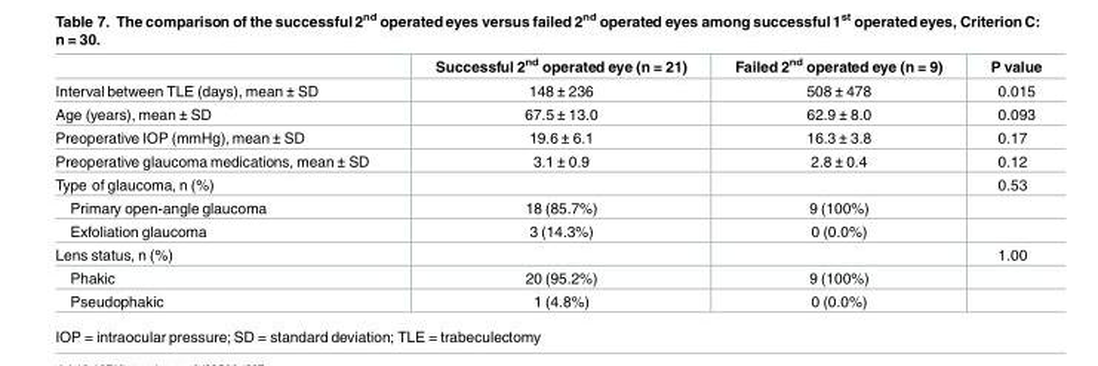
<table><thead><tr><td></td><td>Successful 2<sup>nd</sup> operated eye (n = 21)</td><td>Failed 2<sup>nd</sup> operated eye (n = 9)</td><td>P value</td></tr></thead><tbody><tr><td>Interval between TLE (days), mean ± SD</td><td>148 ± 236</td><td>508 ± 478</td><td>0.015</td></tr><tr><td>Age (years), mean ± SD</td><td>67.5 ± 13.0</td><td>62.9 ± 8.0</td><td>0.093</td></tr><tr><td>Preoperative IOP (mmHg), mean ± SD</td><td>19.6 ± 6.1</td><td>16.3 ± 3.8</td><td>0.17</td></tr><tr><td>Preoperative glaucoma medications, mean ± SD</td><td>3.1 ± 0.9</td><td>2.8 ± 0.4</td><td>0.12</td></tr><tr><td>Type of glaucoma, n (%)</td><td></td><td></td><td>0.53</td></tr><tr><td>Primary open-angle glaucoma</td><td>18 (85.7%)</td><td>9 (100%)</td><td></td></tr><tr><td>Exfoliation glaucoma</td><td>3 (14.3%)</td><td>0 (0.0%)</td><td></td></tr><tr><td>Lens status, n (%)</td><td></td><td></td><td>1.00</td></tr><tr><td>Phakic</td><td>20 (95.2%)</td><td>9 (100%)</td><td></td></tr><tr><td>Pseudophakic</td><td>1 (4.8%)</td><td>0 (0.0%)</td><td></td></tr></tbody></table>